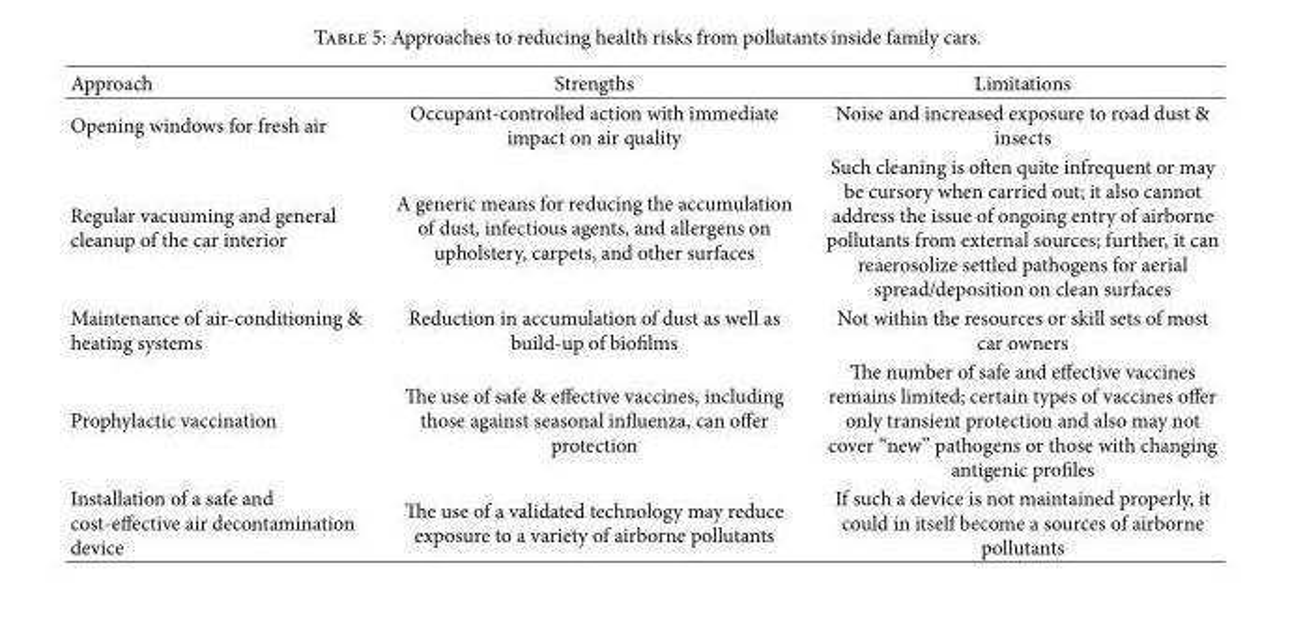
<table><thead><tr><td>Approach</td><td>Strengths</td><td>Limitations</td></tr></thead><tbody><tr><td>Opening windows for fresh air</td><td>Occupant-controlled action with immediate impact on air quality</td><td>Noise and increased exposure to road dust &amp; insects</td></tr><tr><td>Regular vacuuming and general cleanup of the car interior</td><td>A generic means for reducing the accumulation of dust, infectious agents, and allergens on upholstery, carpets, and other surfaces</td><td>Such cleaning is often quite infrequent or may be cursory when carried out; it also cannot address the issue of ongoing entry of airborne pollutants from external sources; further, it can reaerosolize settled pathogens for aerial spread/deposition on clean surfaces</td></tr><tr><td>Maintenance of air-conditioning &amp; heating systems</td><td>Reduction in accumulation of dust as well as build-up of biofilms</td><td>Not within the resources or skill sets of most car owners</td></tr><tr><td>Prophylactic vaccination</td><td>The use of safe &amp; effective vaccines, including those against seasonal influenza, can offer protection</td><td>The number of safe and effective vaccines remains limited; certain types of vaccines offer only transient protection and also may not cover “new” pathogens or those with changing antigenic profiles</td></tr><tr><td>Installation of a safe and cost-effective air decontamination device</td><td>The use of a validated technology may reduce exposure to a variety of airborne pollutants</td><td>If such a device is not maintained properly, it could in itself become a sources of airborne pollutants</td></tr></tbody></table>